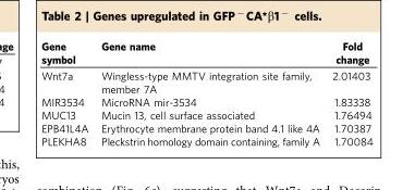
<table><thead><tr><td>Gene symbol</td><td>Gene name</td><td>Fold change</td></tr></thead><tbody><tr><td>Wnt7a</td><td>Wingless-type MMTV integration site family, member 7A</td><td>2.01403</td></tr><tr><td>MIR3534</td><td>MicroRNA mir-3534</td><td>1.83338</td></tr><tr><td>MUC13</td><td>Mucin 13, cell surface associated</td><td>1.76494</td></tr><tr><td>EPB41L4A</td><td>Erythrocyte membrane protein band 4.1 like 4A</td><td>1.70387</td></tr><tr><td>PLEKHA8</td><td>Pleckstrin homology domain containing, family A</td><td>1.70084</td></tr></tbody></table>